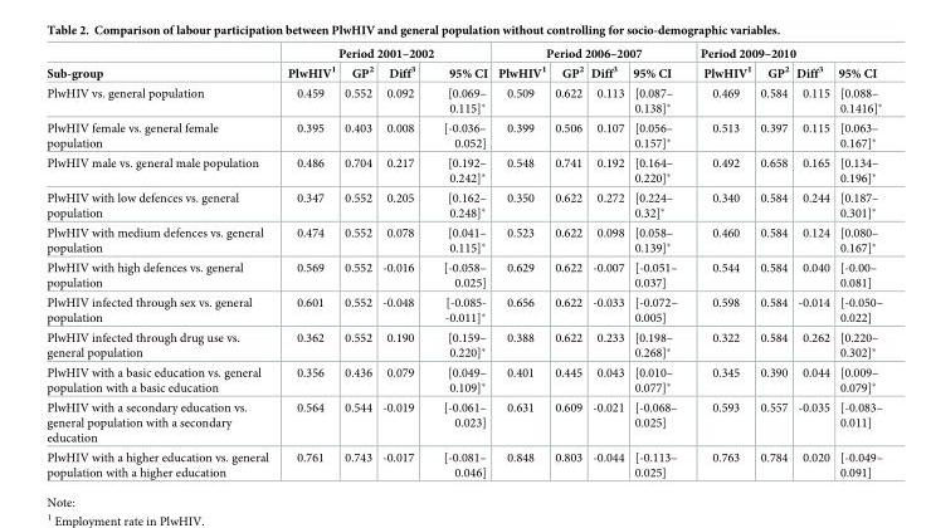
<table><thead><tr><td rowspan="2">Sub-group</td><td colspan="4">Period 2001–2002</td><td colspan="4">Period 2006–2007</td><td colspan="4">Period 2009–2010</td></tr><tr><td>PlwHIV<sup>1</sup></td><td>GP<sup>2</sup></td><td>Diff<sup>3</sup></td><td>95% CI</td><td>PlwHIV<sup>1</sup></td><td>GP<sup>2</sup></td><td>Diff<sup>3</sup></td><td>95% CI</td><td>PlwHIV<sup>1</sup></td><td>GP<sup>2</sup></td><td>Diff<sup>3</sup></td><td>95% CI</td></tr></thead><tbody><tr><td>PlwHIV vs. general population</td><td>0.459</td><td>0.552</td><td>0.092</td><td>[0.069– 0.115]*</td><td>0.509</td><td>0.622</td><td>0.113</td><td>[0.087– 0.138]*</td><td>0.469</td><td>0.584</td><td>0.115</td><td>[0.088– 0.1416]*</td></tr><tr><td>PlwHIV female vs. general female population</td><td>0.395</td><td>0.403</td><td>0.008</td><td>[-0.036– 0.052]</td><td>0.399</td><td>0.506</td><td>0.107</td><td>[0.056– 0.157]*</td><td>0.513</td><td>0.397</td><td>0.115</td><td>[0.063– 0.167]*</td></tr><tr><td>PlwHIV male vs. general male population</td><td>0.486</td><td>0.704</td><td>0.217</td><td>[0.192– 0.242]*</td><td>0.548</td><td>0.741</td><td>0.192</td><td>[0.164– 0.220]*</td><td>0.492</td><td>0.658</td><td>0.165</td><td>[0.134– 0.196]*</td></tr><tr><td>PlwHIV with low defences vs. general population</td><td>0.347</td><td>0.552</td><td>0.205</td><td>[0.162– 0.248]*</td><td>0.350</td><td>0.622</td><td>0.272</td><td>[0.224– 0.32]*</td><td>0.340</td><td>0.584</td><td>0.244</td><td>[0.187– 0.301]*</td></tr><tr><td>PlwHIV with medium defences vs. general population</td><td>0.474</td><td>0.552</td><td>0.078</td><td>[0.041– 0.115]*</td><td>0.523</td><td>0.622</td><td>0.098</td><td>[0.058– 0.139]*</td><td>0.460</td><td>0.584</td><td>0.124</td><td>[0.080– 0.167]*</td></tr><tr><td>PlwHIV with high defences vs. general population</td><td>0.569</td><td>0.552</td><td>-0.016</td><td>[-0.058– 0.025]</td><td>0.629</td><td>0.622</td><td>-0.007</td><td>[-0.051– 0.037]</td><td>0.544</td><td>0.584</td><td>0.040</td><td>[-0.00– 0.081]</td></tr><tr><td>PlwHIV infected through sex vs. general population</td><td>0.601</td><td>0.552</td><td>-0.048</td><td>[-0.085- -0.011]*</td><td>0.656</td><td>0.622</td><td>-0.033</td><td>[-0.072– 0.005]</td><td>0.598</td><td>0.584</td><td>-0.014</td><td>[-0.050– 0.022]</td></tr><tr><td>PlwHIV infected through drug use vs. general population</td><td>0.362</td><td>0.552</td><td>0.190</td><td>[0.159– 0.220]*</td><td>0.388</td><td>0.622</td><td>0.233</td><td>[0.198– 0.268]*</td><td>0.322</td><td>0.584</td><td>0.262</td><td>[0.220– 0.302]*</td></tr><tr><td>PlwHIV with a basic education vs. general population with a basic education</td><td>0.356</td><td>0.436</td><td>0.079</td><td>[0.049– 0.109]*</td><td>0.401</td><td>0.445</td><td>0.043</td><td>[0.010– 0.077]*</td><td>0.345</td><td>0.390</td><td>0.044</td><td>[0.009– 0.079]*</td></tr><tr><td>PlwHIV with a secondary education vs. general population with a secondary education</td><td>0.564</td><td>0.544</td><td>-0.019</td><td>[-0.061– 0.023]</td><td>0.631</td><td>0.609</td><td>-0.021</td><td>[-0.068– 0.025]</td><td>0.593</td><td>0.557</td><td>-0.035</td><td>[-0.083– 0.011]</td></tr><tr><td>PlwHIV with a higher education vs. general population with a higher education</td><td>0.761</td><td>0.743</td><td>-0.017</td><td>[-0.081– 0.046]</td><td>0.848</td><td>0.803</td><td>-0.044</td><td>[-0.113– 0.025]</td><td>0.763</td><td>0.784</td><td>0.020</td><td>[-0.049– 0.091]</td></tr></tbody></table>